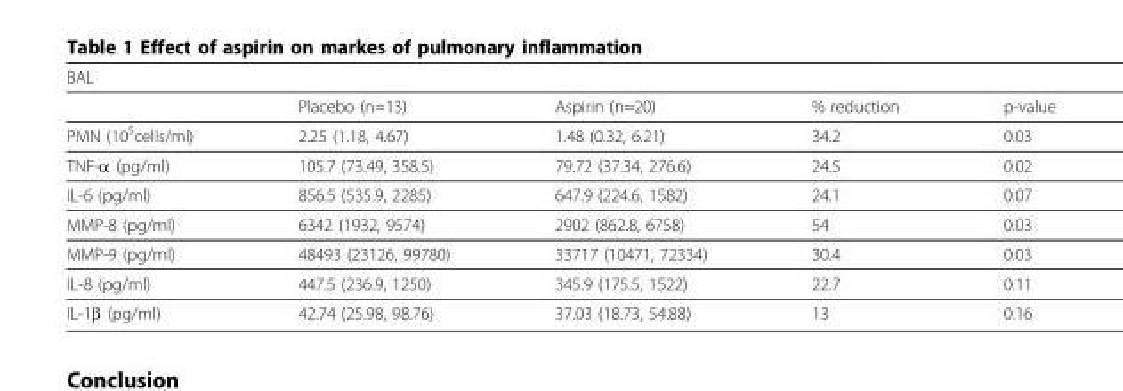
<table><thead><tr><td>BAL</td><td></td><td></td><td></td><td></td></tr></thead><tbody><tr><td></td><td>Placebo (n=13)</td><td>Aspirin (n=20)</td><td>% reduction</td><td>p-value</td></tr><tr><td>PMN (10<sup>5</sup>cells/ml)</td><td>2.25 (1.18, 4.67)</td><td>1.48 (0.32, 6.21)</td><td>34.2</td><td>0.03</td></tr><tr><td>TNF-α (pg/ml)</td><td>105.7 (73.49, 358.5)</td><td>79.72 (37.34, 276.6)</td><td>24.5</td><td>0.02</td></tr><tr><td>IL-6 (pg/ml)</td><td>856.5 (535.9, 2285)</td><td>647.9 (224.6, 1582)</td><td>24.1</td><td>0.07</td></tr><tr><td>MMP-8 (pg/ml)</td><td>6342 (1932, 9574)</td><td>2902 (862.8, 6758)</td><td>54</td><td>0.03</td></tr><tr><td>MMP-9 (pg/ml)</td><td>48493 (23126, 99780)</td><td>33717 (10471, 72334)</td><td>30.4</td><td>0.03</td></tr><tr><td>IL-8 (pg/ml)</td><td>447.5 (236.9, 1250)</td><td>345.9 (175.5, 1522)</td><td>22.7</td><td>0.11</td></tr><tr><td>IL-1β (pg/ml)</td><td>42.74 (25.98, 98.76)</td><td>37.03 (18.73, 54.88)</td><td>13</td><td>0.16</td></tr></tbody></table>